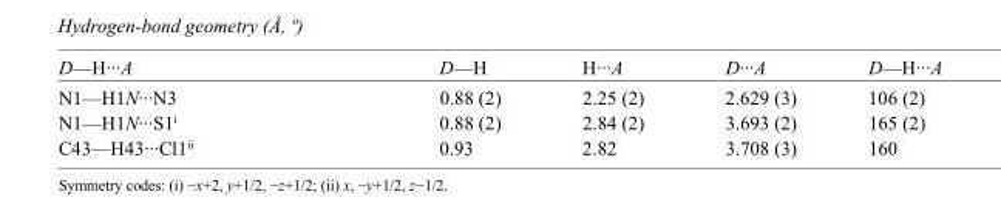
<table><tbody><tr><td>D—H···A</td><td>D—H</td><td>H···A</td><td>D···A</td><td>D—H···A</td></tr><tr><td>N1—H1N···N3</td><td>0.88 (2)</td><td>2.25 (2)</td><td>2.629 (3)</td><td>106 (2)</td></tr><tr><td>N1—H1N···S1<sup>i</sup></td><td>0.88 (2)</td><td>2.84 (2)</td><td>3.693 (2)</td><td>165 (2)</td></tr><tr><td>C43—H43···Cl1<sup>ii</sup></td><td>0.93</td><td>2.82</td><td>3.708 (3)</td><td>160</td></tr></tbody></table>